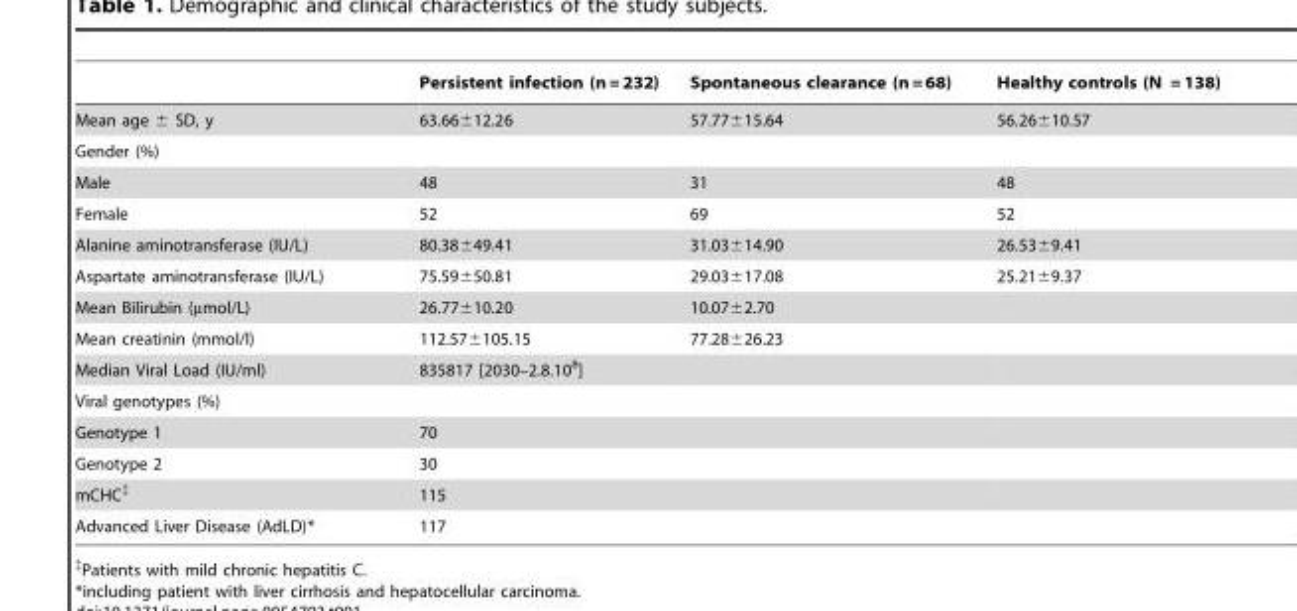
<table><thead><tr><td></td><td>Persistent infection (n = 232)</td><td>Spontaneous clearance (n = 68)</td><td>Healthy controls (N = 138)</td></tr></thead><tbody><tr><td>Mean age ± SD, y</td><td>63.66±12.26</td><td>57.77±15.64</td><td>56.26±10.57</td></tr><tr><td colspan="4">Gender (%)</td></tr><tr><td>Male</td><td>48</td><td>31</td><td>48</td></tr><tr><td>Female</td><td>52</td><td>69</td><td>52</td></tr><tr><td>Alanine aminotransferase (IU/L)</td><td>80.38±49.41</td><td>31.03±14.90</td><td>26.53±9.41</td></tr><tr><td>Aspartate aminotransferase (IU/L)</td><td>75.59±50.81</td><td>29.03±17.08</td><td>25.21±9.37</td></tr><tr><td>Mean Bilirubin (µmol/L)</td><td>26.77±10.20</td><td>10.07±2.70</td><td></td></tr><tr><td>Mean creatinin (mmol/l)</td><td>112.57±105.15</td><td>77.28±26.23</td><td></td></tr><tr><td>Median Viral Load (IU/ml)</td><td>835817 [2030–2.8.10<sup>8</sup>]</td><td></td><td></td></tr><tr><td colspan="4">Viral genotypes (%)</td></tr><tr><td>Genotype 1</td><td>70</td><td></td><td></td></tr><tr><td>Genotype 2</td><td>30</td><td></td><td></td></tr><tr><td>mCHC‡</td><td>115</td><td></td><td></td></tr><tr><td>Advanced Liver Disease (AdLD)*</td><td>117</td><td></td><td></td></tr></tbody></table>